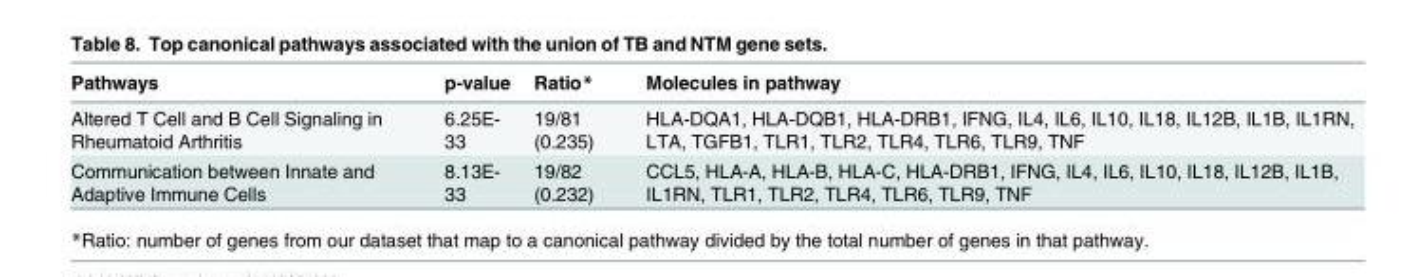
<table><thead><tr><td>Pathways</td><td>p-value</td><td>Ratio*</td><td>Molecules in pathway</td></tr></thead><tbody><tr><td>Altered T Cell and B Cell Signaling in Rheumatoid Arthritis</td><td>6.25E- 33</td><td>19/81 (0.235)</td><td>HLA-DQA1, HLA-DQB1, HLA-DRB1, IFNG, IL4, IL6, IL10, IL18, IL12B, IL1B, IL1RN, LTA, TGFB1, TLR1, TLR2, TLR4, TLR6, TLR9, TNF</td></tr><tr><td>Communication between Innate and Adaptive Immune Cells</td><td>8.13E- 33</td><td>19/82 (0.232)</td><td>CCL5, HLA-A, HLA-B, HLA-C, HLA-DRB1, IFNG, IL4, IL6, IL10, IL18, IL12B, IL1B, IL1RN, TLR1, TLR2, TLR4, TLR6, TLR9, TNF</td></tr></tbody></table>